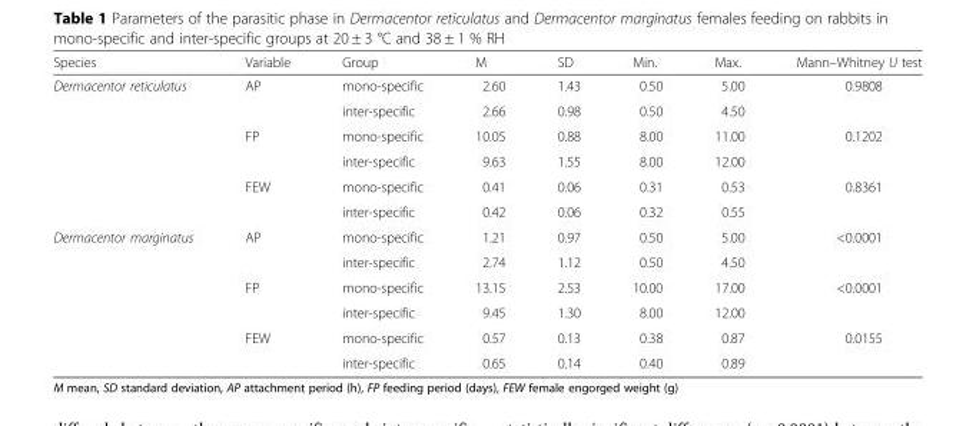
<table><thead><tr><td>Species</td><td>Variable</td><td>Group</td><td>M</td><td>SD</td><td>Min.</td><td>Max.</td><td>Mann–Whitney U test</td></tr></thead><tbody><tr><td rowspan="6">Dermacentor reticulatus</td><td rowspan="2">AP</td><td>mono-specific</td><td>2.60</td><td>1.43</td><td>0.50</td><td>5.00</td><td rowspan="2">0.9808</td></tr><tr><td>inter-specific</td><td>2.66</td><td>0.98</td><td>0.50</td><td>4.50</td></tr><tr><td rowspan="2">FP</td><td>mono-specific</td><td>10.05</td><td>0.88</td><td>8.00</td><td>11.00</td><td rowspan="2">0.1202</td></tr><tr><td>inter-specific</td><td>9.63</td><td>1.55</td><td>8.00</td><td>12.00</td></tr><tr><td rowspan="2">FEW</td><td>mono-specific</td><td>0.41</td><td>0.06</td><td>0.31</td><td>0.53</td><td rowspan="2">0.8361</td></tr><tr><td>inter-specific</td><td>0.42</td><td>0.06</td><td>0.32</td><td>0.55</td></tr><tr><td rowspan="6">Dermacentor marginatus</td><td rowspan="2">AP</td><td>mono-specific</td><td>1.21</td><td>0.97</td><td>0.50</td><td>5.00</td><td rowspan="2">&lt;0.0001</td></tr><tr><td>inter-specific</td><td>2.74</td><td>1.12</td><td>0.50</td><td>4.50</td></tr><tr><td rowspan="2">FP</td><td>mono-specific</td><td>13.15</td><td>2.53</td><td>10.00</td><td>17.00</td><td rowspan="2">&lt;0.0001</td></tr><tr><td>inter-specific</td><td>9.45</td><td>1.30</td><td>8.00</td><td>12.00</td></tr><tr><td rowspan="2">FEW</td><td>mono-specific</td><td>0.57</td><td>0.13</td><td>0.38</td><td>0.87</td><td rowspan="2">0.0155</td></tr><tr><td>inter-specific</td><td>0.65</td><td>0.14</td><td>0.40</td><td>0.89</td></tr></tbody></table>